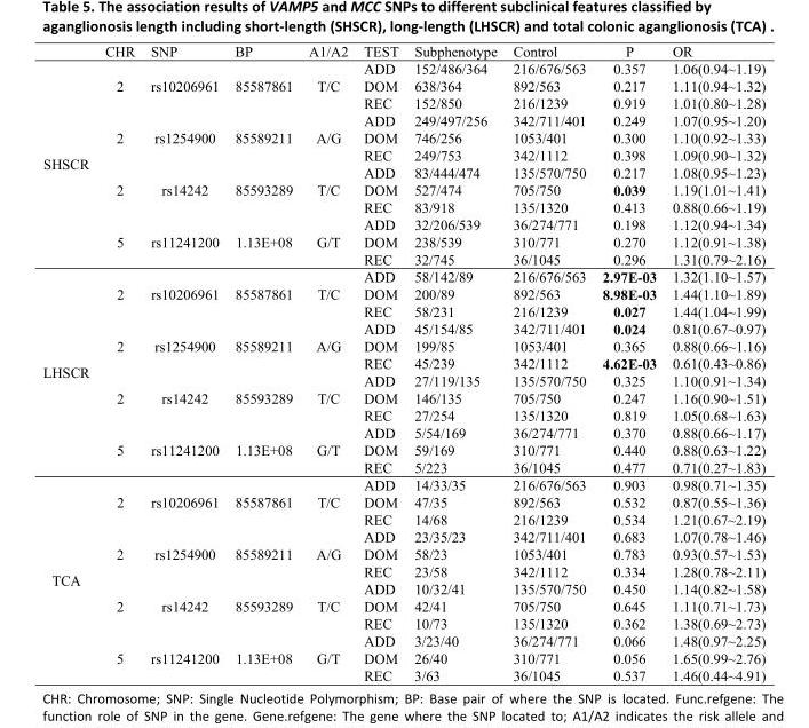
<table><thead><tr><td></td><td>CHR</td><td>SNP</td><td>BP</td><td>A1/A2</td><td>TEST</td><td>Subphenotype</td><td>Control</td><td>P</td><td>OR</td></tr></thead><tbody><tr><td rowspan="12">SHSCR</td><td rowspan="3">2</td><td rowspan="3">rs10206961</td><td rowspan="3">85587861</td><td rowspan="3">T/C</td><td>ADD</td><td>152/486/364</td><td>216/676/563</td><td>0.357</td><td>1.06(0.94~1.19)</td></tr><tr><td>DOM</td><td>638/364</td><td>892/563</td><td>0.217</td><td>1.11(0.94~1.32)</td></tr><tr><td>REC</td><td>152/850</td><td>216/1239</td><td>0.919</td><td>1.01(0.80~1.28)</td></tr><tr><td rowspan="3">2</td><td rowspan="3">rs1254900</td><td rowspan="3">85589211</td><td rowspan="3">A/G</td><td>ADD</td><td>249/497/256</td><td>342/711/401</td><td>0.249</td><td>1.07(0.95~1.20)</td></tr><tr><td>DOM</td><td>746/256</td><td>1053/401</td><td>0.300</td><td>1.10(0.92~1.33)</td></tr><tr><td>REC</td><td>249/753</td><td>342/1112</td><td>0.398</td><td>1.09(0.90~1.32)</td></tr><tr><td rowspan="3">2</td><td rowspan="3">rs14242</td><td rowspan="3">85593289</td><td rowspan="3">T/C</td><td>ADD</td><td>83/444/474</td><td>135/570/750</td><td>0.217</td><td>1.08(0.95~1.23)</td></tr><tr><td>DOM</td><td>527/474</td><td>705/750</td><td>0.039</td><td>1.19(1.01~1.41)</td></tr><tr><td>REC</td><td>83/918</td><td>135/1320</td><td>0.413</td><td>0.88(0.66~1.19)</td></tr><tr><td rowspan="3">5</td><td rowspan="3">rs11241200</td><td rowspan="3">1.13E+08</td><td rowspan="3">G/T</td><td>ADD</td><td>32/206/539</td><td>36/274/771</td><td>0.198</td><td>1.12(0.94~1.34)</td></tr><tr><td>DOM</td><td>238/539</td><td>310/771</td><td>0.270</td><td>1.12(0.91~1.38)</td></tr><tr><td>REC</td><td>32/745</td><td>36/1045</td><td>0.296</td><td>1.31(0.79~2.16)</td></tr><tr><td rowspan="12">LHSCR</td><td rowspan="3">2</td><td rowspan="3">rs10206961</td><td rowspan="3">85587861</td><td rowspan="3">T/C</td><td>ADD</td><td>58/142/89</td><td>216/676/563</td><td>2.97E-03</td><td>1.32(1.10~1.57)</td></tr><tr><td>DOM</td><td>200/89</td><td>892/563</td><td>8.98E-03</td><td>1.44(1.10~1.89)</td></tr><tr><td>REC</td><td>58/231</td><td>216/1239</td><td>0.027</td><td>1.44(1.04~1.99)</td></tr><tr><td rowspan="3">2</td><td rowspan="3">rs1254900</td><td rowspan="3">85589211</td><td rowspan="3">A/G</td><td>ADD</td><td>45/154/85</td><td>342/711/401</td><td>0.024</td><td>0.81(0.67~0.97)</td></tr><tr><td>DOM</td><td>199/85</td><td>1053/401</td><td>0.365</td><td>0.88(0.66~1.16)</td></tr><tr><td>REC</td><td>45/239</td><td>342/1112</td><td>4.62E-03</td><td>0.61(0.43~0.86)</td></tr><tr><td rowspan="3">2</td><td rowspan="3">rs14242</td><td rowspan="3">85593289</td><td rowspan="3">T/C</td><td>ADD</td><td>27/119/135</td><td>135/570/750</td><td>0.325</td><td>1.10(0.91~1.34)</td></tr><tr><td>DOM</td><td>146/135</td><td>705/750</td><td>0.247</td><td>1.16(0.90~1.51)</td></tr><tr><td>REC</td><td>27/254</td><td>135/1320</td><td>0.819</td><td>1.05(0.68~1.63)</td></tr><tr><td rowspan="3">5</td><td rowspan="3">rs11241200</td><td rowspan="3">1.13E+08</td><td rowspan="3">G/T</td><td>ADD</td><td>5/54/169</td><td>36/274/771</td><td>0.370</td><td>0.88(0.66~1.17)</td></tr><tr><td>DOM</td><td>59/169</td><td>310/771</td><td>0.440</td><td>0.88(0.63~1.22)</td></tr><tr><td>REC</td><td>5/223</td><td>36/1045</td><td>0.477</td><td>0.71(0.27~1.83)</td></tr><tr><td rowspan="12">TCA</td><td rowspan="3">2</td><td rowspan="3">rs10206961</td><td rowspan="3">85587861</td><td rowspan="3">T/C</td><td>ADD</td><td>14/33/35</td><td>216/676/563</td><td>0.903</td><td>0.98(0.71~1.35)</td></tr><tr><td>DOM</td><td>47/35</td><td>892/563</td><td>0.532</td><td>0.87(0.55~1.36)</td></tr><tr><td>REC</td><td>14/68</td><td>216/1239</td><td>0.534</td><td>1.21(0.67~2.19)</td></tr><tr><td rowspan="3">2</td><td rowspan="3">rs1254900</td><td rowspan="3">85589211</td><td rowspan="3">A/G</td><td>ADD</td><td>23/35/23</td><td>342/711/401</td><td>0.683</td><td>1.07(0.78~1.46)</td></tr><tr><td>DOM</td><td>58/23</td><td>1053/401</td><td>0.783</td><td>0.93(0.57~1.53)</td></tr><tr><td>REC</td><td>23/58</td><td>342/1112</td><td>0.334</td><td>1.28(0.78~2.11)</td></tr><tr><td rowspan="3">2</td><td rowspan="3">rs14242</td><td rowspan="3">85593289</td><td rowspan="3">T/C</td><td>ADD</td><td>10/32/41</td><td>135/570/750</td><td>0.450</td><td>1.14(0.82~1.58)</td></tr><tr><td>DOM</td><td>42/41</td><td>705/750</td><td>0.645</td><td>1.11(0.71~1.73)</td></tr><tr><td>REC</td><td>10/73</td><td>135/1320</td><td>0.362</td><td>1.38(0.69~2.73)</td></tr><tr><td rowspan="3">5</td><td rowspan="3">rs11241200</td><td rowspan="3">1.13E+08</td><td rowspan="3">G/T</td><td>ADD</td><td>3/23/40</td><td>36/274/771</td><td>0.066</td><td>1.48(0.97~2.25)</td></tr><tr><td>DOM</td><td>26/40</td><td>310/771</td><td>0.056</td><td>1.65(0.99~2.76)</td></tr><tr><td>REC</td><td>3/63</td><td>36/1045</td><td>0.537</td><td>1.46(0.44~4.91)</td></tr></tbody></table>